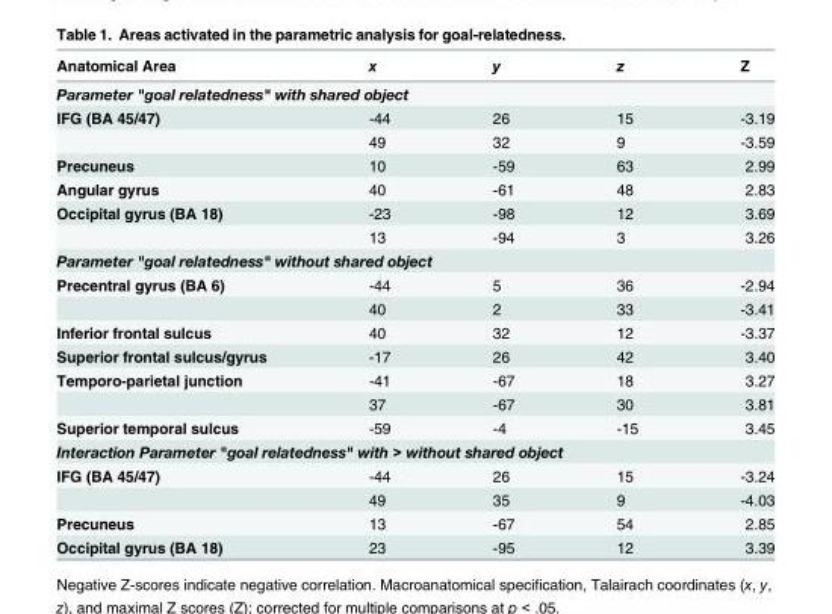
<table><thead><tr><td>Anatomical Area</td><td>x</td><td>y</td><td>z</td><td>Z</td></tr></thead><tbody><tr><td colspan="5">Parameter &quot;goal relatedness&quot; with shared object</td></tr><tr><td rowspan="2">IFG (BA 45/47)</td><td>-44</td><td>26</td><td>15</td><td>-3.19</td></tr><tr><td>49</td><td>32</td><td>9</td><td>-3.59</td></tr><tr><td>Precuneus</td><td>10</td><td>-59</td><td>63</td><td>2.99</td></tr><tr><td>Angular gyrus</td><td>40</td><td>-61</td><td>48</td><td>2.83</td></tr><tr><td rowspan="2">Occipital gyrus (BA 18)</td><td>-23</td><td>-98</td><td>12</td><td>3.69</td></tr><tr><td>13</td><td>-94</td><td>3</td><td>3.26</td></tr><tr><td colspan="5">Parameter &quot;goal relatedness&quot; without shared object</td></tr><tr><td rowspan="2">Precentral gyrus (BA 6)</td><td>-44</td><td>5</td><td>36</td><td>-2.94</td></tr><tr><td>40</td><td>2</td><td>33</td><td>-3.41</td></tr><tr><td>Inferior frontal sulcus</td><td>40</td><td>32</td><td>12</td><td>-3.37</td></tr><tr><td>Superior frontal sulcus/gyrus</td><td>-17</td><td>26</td><td>42</td><td>3.40</td></tr><tr><td rowspan="2">Temporo-parietal junction</td><td>-41</td><td>-67</td><td>18</td><td>3.27</td></tr><tr><td>37</td><td>-67</td><td>30</td><td>3.81</td></tr><tr><td>Superior temporal sulcus</td><td>-59</td><td>-4</td><td>-15</td><td>3.45</td></tr><tr><td colspan="5">Interaction Parameter &quot;goal relatedness&quot; with &gt; without shared object</td></tr><tr><td rowspan="2">IFG (BA 45/47)</td><td>-44</td><td>26</td><td>15</td><td>-3.24</td></tr><tr><td>49</td><td>35</td><td>9</td><td>-4.03</td></tr><tr><td>Precuneus</td><td>13</td><td>-67</td><td>54</td><td>2.85</td></tr><tr><td>Occipital gyrus (BA 18)</td><td>23</td><td>-95</td><td>12</td><td>3.39</td></tr></tbody></table>